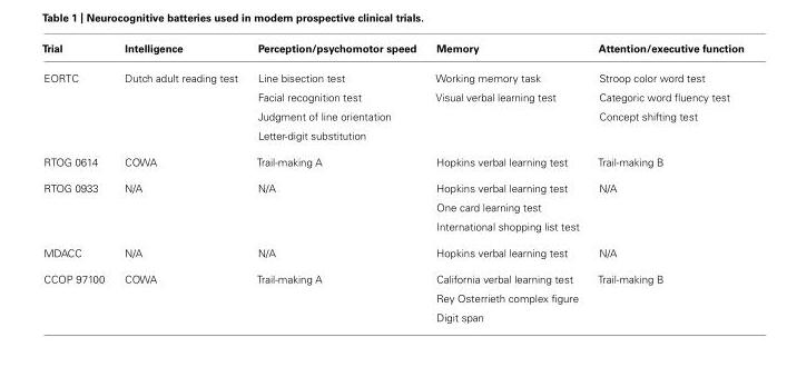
<table><thead><tr><td>Trial</td><td>Intelligence</td><td>Perception/psychomotor speed</td><td>Memory</td><td>Attention/executive function</td></tr></thead><tbody><tr><td rowspan="4">EORTC</td><td>Dutch adult reading test</td><td>Line bisection test</td><td>Working memory task</td><td>Stroop color word test</td></tr><tr><td></td><td>Facial recognition test</td><td>Visual verbal learning test</td><td>Categoric word fluency test</td></tr><tr><td></td><td>Judgment of line orientation</td><td></td><td>Concept shifting test</td></tr><tr><td></td><td>Letter-digit substitution</td><td></td><td></td></tr><tr><td>RTOG 0614</td><td>COWA</td><td>Trail-making A</td><td>Hopkins verbal learning test</td><td>Trail-making B</td></tr><tr><td rowspan="3">RTOG 0933</td><td>N/A</td><td>N/A</td><td>Hopkins verbal learning test</td><td>N/A</td></tr><tr><td></td><td></td><td>One card learning test</td><td></td></tr><tr><td></td><td></td><td>International shopping list test</td><td></td></tr><tr><td>MDACC</td><td>N/A</td><td>N/A</td><td>Hopkins verbal learning test</td><td>N/A</td></tr><tr><td rowspan="3">CCOP 97100</td><td>COWA</td><td>Trail-making A</td><td>California verbal learning test</td><td>Trail-making B</td></tr><tr><td></td><td></td><td>Rey Osterrieth complex figure</td><td></td></tr><tr><td></td><td></td><td>Digit span</td><td></td></tr></tbody></table>